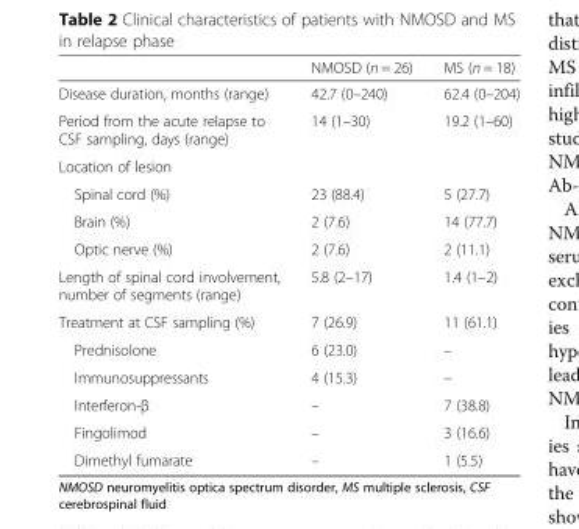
<table><thead><tr><td></td><td>NMOSD (n = 26)</td><td>MS (n = 18)</td></tr></thead><tbody><tr><td>Disease duration, months (range)</td><td>42.7 (0–240)</td><td>62.4 (0–204)</td></tr><tr><td>Period from the acute relapse to CSF sampling, days (range)</td><td>14 (1–30)</td><td>19.2 (1–60)</td></tr><tr><td colspan="3">Location of lesion</td></tr><tr><td>Spinal cord (%)</td><td>23 (88.4)</td><td>5 (27.7)</td></tr><tr><td>Brain (%)</td><td>2 (7.6)</td><td>14 (77.7)</td></tr><tr><td>Optic nerve (%)</td><td>2 (7.6)</td><td>2 (11.1)</td></tr><tr><td>Length of spinal cord involvement, number of segments (range)</td><td>5.8 (2–17)</td><td>1.4 (1–2)</td></tr><tr><td>Treatment at CSF sampling (%)</td><td>7 (26.9)</td><td>11 (61.1)</td></tr><tr><td>Prednisolone</td><td>6 (23.0)</td><td>–</td></tr><tr><td>Immunosuppressants</td><td>4 (15.3)</td><td>–</td></tr><tr><td>Interferon-β</td><td>–</td><td>7 (38.8)</td></tr><tr><td>Fingolimod</td><td>–</td><td>3 (16.6)</td></tr><tr><td>Dimethyl fumarate</td><td>–</td><td>1 (5.5)</td></tr></tbody></table>